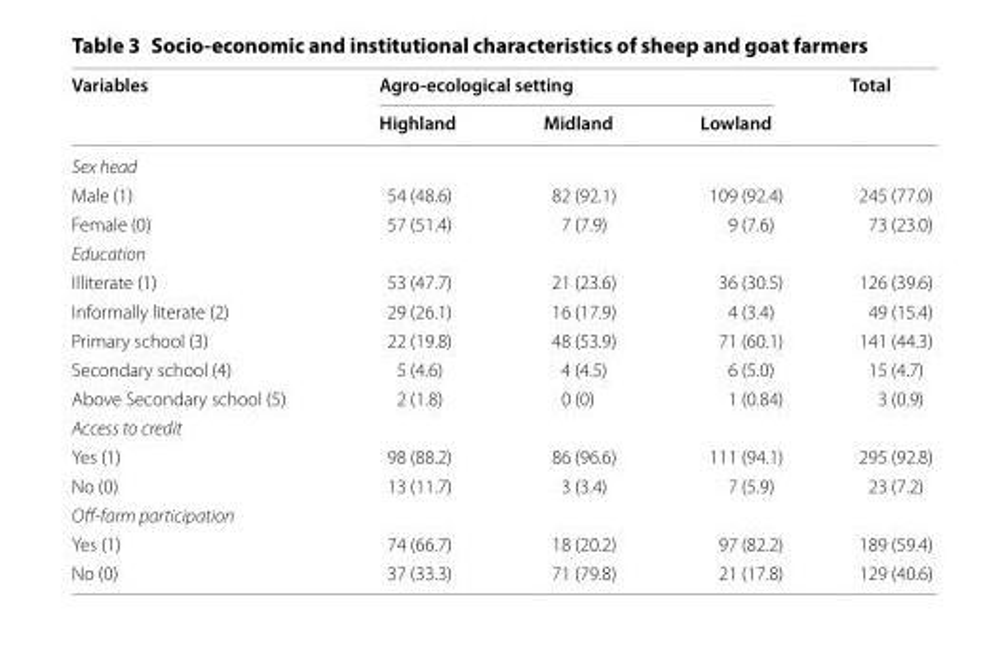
<table><thead><tr><td rowspan="2">Variables</td><td colspan="3">Agro-ecological setting</td><td rowspan="2">Total</td></tr><tr><td>Highland</td><td>Midland</td><td>Lowland</td></tr></thead><tbody><tr><td colspan="5">Sex head</td></tr><tr><td>Male (1)</td><td>54 (48.6)</td><td>82 (92.1)</td><td>109 (92.4)</td><td>245 (77.0)</td></tr><tr><td>Female (0)</td><td>57 (51.4)</td><td>7 (7.9)</td><td>9 (7.6)</td><td>73 (23.0)</td></tr><tr><td colspan="5">Education</td></tr><tr><td>Illiterate (1)</td><td>53 (47.7)</td><td>21 (23.6)</td><td>36 (30.5)</td><td>126 (39.6)</td></tr><tr><td>Informally literate (2)</td><td>29 (26.1)</td><td>16 (17.9)</td><td>4 (3.4)</td><td>49 (15.4)</td></tr><tr><td>Primary school (3)</td><td>22 (19.8)</td><td>48 (53.9)</td><td>71 (60.1)</td><td>141 (44.3)</td></tr><tr><td>Secondary school (4)</td><td>5 (4.6)</td><td>4 (4.5)</td><td>6 (5.0)</td><td>15 (4.7)</td></tr><tr><td>Above Secondary school (5)</td><td>2 (1.8)</td><td>0 (0)</td><td>1 (0.84)</td><td>3 (0.9)</td></tr><tr><td colspan="5">Access to credit</td></tr><tr><td>Yes (1)</td><td>98 (88.2)</td><td>86 (96.6)</td><td>111 (94.1)</td><td>295 (92.8)</td></tr><tr><td>No (0)</td><td>13 (11.7)</td><td>3 (3.4)</td><td>7 (5.9)</td><td>23 (7.2)</td></tr><tr><td colspan="5">Off-farm participation</td></tr><tr><td>Yes (1)</td><td>74 (66.7)</td><td>18 (20.2)</td><td>97 (82.2)</td><td>189 (59.4)</td></tr><tr><td>No (0)</td><td>37 (33.3)</td><td>71 (79.8)</td><td>21 (17.8)</td><td>129 (40.6)</td></tr></tbody></table>